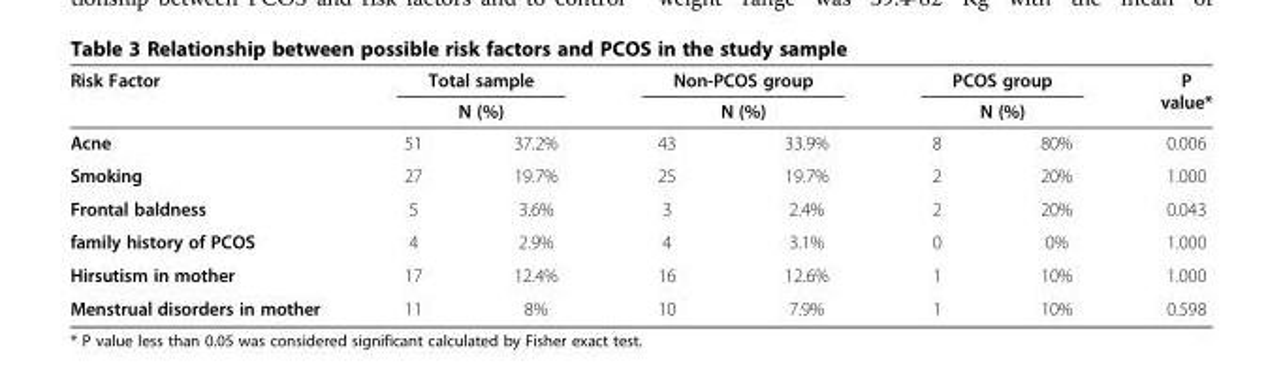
<table><thead><tr><td rowspan="3">Risk Factor Acne</td><td rowspan="2" colspan="2">Total sample N (%)</td><td rowspan="2" colspan="2">Non-PCOS group N (%)</td><td rowspan="2" colspan="2">PCOS group N (%)</td><td rowspan="3">P value* 0.006</td></tr><tr></tr><tr><td>51</td><td>37.2%</td><td>43</td><td>33.9%</td><td>8</td><td>80%</td></tr></thead><tbody><tr><td>Smoking</td><td>27</td><td>19.7%</td><td>25</td><td>19.7%</td><td>2</td><td>20%</td><td>1.000</td></tr><tr><td>Frontal baldness</td><td>5</td><td>3.6%</td><td>3</td><td>2.4%</td><td>2</td><td>20%</td><td>0.043</td></tr><tr><td>family history of PCOS</td><td>4</td><td>2.9%</td><td>4</td><td>3.1%</td><td>0</td><td>0%</td><td>1.000</td></tr><tr><td>Hirsutism in mother</td><td>17</td><td>12.4%</td><td>16</td><td>12.6%</td><td>1</td><td>10%</td><td>1.000</td></tr><tr><td>Menstrual disorders in mother</td><td>11</td><td>8%</td><td>10</td><td>7.9%</td><td>1</td><td>10%</td><td>0.598</td></tr></tbody></table>